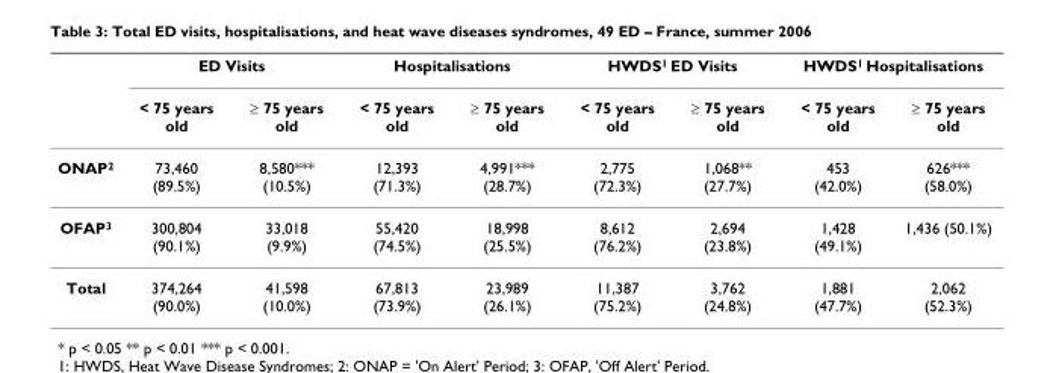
<table><thead><tr><td rowspan="2"></td><td colspan="2">ED Visits</td><td colspan="2">Hospitalisations</td><td colspan="2">HWDS<sup>1</sup> ED Visits</td><td colspan="2">HWDS<sup>1</sup> Hospitalisations</td></tr><tr><td>&lt; 75 years old</td><td>≥ 75 years old</td><td>&lt; 75 years old</td><td>≥ 75 years old</td><td>&lt; 75 years old</td><td>≥ 75 years old</td><td>&lt; 75 years old</td><td>≥ 75 years old</td></tr></thead><tbody><tr><td>ONAP<sup>2</sup></td><td>73,460 (89.5%)</td><td>8,580*** (10.5%)</td><td>12,393 (71.3%)</td><td>4,991*** (28.7%)</td><td>2,775 (72.3%)</td><td>1,068** (27.7%)</td><td>453 (42.0%)</td><td>626*** (58.0%)</td></tr><tr><td>OFAP<sup>3</sup></td><td>300,804 (90.1%)</td><td>33,018 (9.9%)</td><td>55,420 (74.5%)</td><td>18,998 (25.5%)</td><td>8,612 (76.2%)</td><td>2,694 (23.8%)</td><td>1,428 (49.1%)</td><td>1,436 (50.1%)</td></tr><tr><td>Total</td><td>374,264 (90.0%)</td><td>41,598 (10.0%)</td><td>67,813 (73.9%)</td><td>23,989 (26.1%)</td><td>11,387 (75.2%)</td><td>3,762 (24.8%)</td><td>1,881 (47.7%)</td><td>2,062 (52.3%)</td></tr></tbody></table>